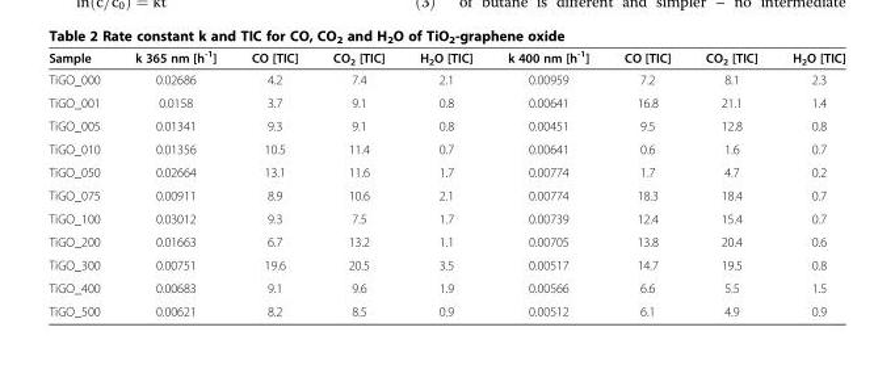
<table><thead><tr><td>Sample</td><td>k 365 nm [h<sup>-1</sup>]</td><td>CO [TIC]</td><td>CO<sub>2</sub> [TIC]</td><td>H<sub>2</sub>O [TIC]</td><td>k 400 nm [h<sup>-1</sup>]</td><td>CO [TIC]</td><td>CO<sub>2</sub> [TIC]</td><td>H<sub>2</sub>O [TIC]</td></tr></thead><tbody><tr><td>TiGO_000</td><td>0.02686</td><td>4.2</td><td>7.4</td><td>2.1</td><td>0.00959</td><td>7.2</td><td>8.1</td><td>2.3</td></tr><tr><td>TiGO_001</td><td>0.0158</td><td>3.7</td><td>9.1</td><td>0.8</td><td>0.00641</td><td>16.8</td><td>21.1</td><td>1.4</td></tr><tr><td>TiGO_005</td><td>0.01341</td><td>9.3</td><td>9.1</td><td>0.8</td><td>0.00451</td><td>9.5</td><td>12.8</td><td>0.8</td></tr><tr><td>TiGO_010</td><td>0.01356</td><td>10.5</td><td>11.4</td><td>0.7</td><td>0.00641</td><td>0.6</td><td>1.6</td><td>0.7</td></tr><tr><td>TiGO_050</td><td>0.02664</td><td>13.1</td><td>11.6</td><td>1.7</td><td>0.00774</td><td>1.7</td><td>4.7</td><td>0.2</td></tr><tr><td>TiGO_075</td><td>0.00911</td><td>8.9</td><td>10.6</td><td>2.1</td><td>0.00774</td><td>18.3</td><td>18.4</td><td>0.7</td></tr><tr><td>TiGO_100</td><td>0.03012</td><td>9.3</td><td>7.5</td><td>1.7</td><td>0.00739</td><td>12.4</td><td>15.4</td><td>0.7</td></tr><tr><td>TiGO_200</td><td>0.01663</td><td>6.7</td><td>13.2</td><td>1.1</td><td>0.00705</td><td>13.8</td><td>20.4</td><td>0.6</td></tr><tr><td>TiGO_300</td><td>0.00751</td><td>19.6</td><td>20.5</td><td>3.5</td><td>0.00517</td><td>14.7</td><td>19.5</td><td>0.8</td></tr><tr><td>TiGO_400</td><td>0.00683</td><td>9.1</td><td>9.6</td><td>1.9</td><td>0.00566</td><td>6.6</td><td>5.5</td><td>1.5</td></tr><tr><td>TiGO_500</td><td>0.00621</td><td>8.2</td><td>8.5</td><td>0.9</td><td>0.00512</td><td>6.1</td><td>4.9</td><td>0.9</td></tr></tbody></table>